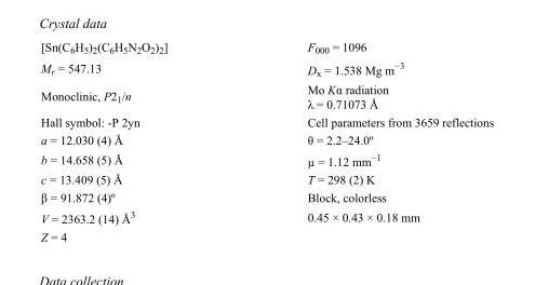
<table><tbody><tr><td>[Sn(C<sub>6</sub>H<sub>5</sub>)<sub>2</sub>(C<sub>6</sub>H<sub>5</sub>N<sub>2</sub>O<sub>2</sub>)<sub>2</sub>]</td><td>F<sub>000</sub> = 1096</td></tr><tr><td>M<sub>r</sub> = 547.13</td><td>D<sub>x</sub> = 1.538 Mg m<sup>−3</sup></td></tr><tr><td>Monoclinic, P2<sub>1</sub>/n</td><td>Mo Kα radiation λ = 0.71073 Å</td></tr><tr><td>Hall symbol: -P 2yn</td><td>Cell parameters from 3659 reflections</td></tr><tr><td>a = 12.030 (4) Å</td><td>θ = 2.2–24.0º</td></tr><tr><td>b = 14.658 (5) Å</td><td>µ = 1.12 mm<sup>−1</sup></td></tr><tr><td>c = 13.409 (5) Å</td><td>T = 298 (2) K</td></tr><tr><td>β = 91.872 (4)º</td><td>Block, colorless</td></tr><tr><td>V = 2363.2 (14) Å<sup>3</sup></td><td>0.45 × 0.43 × 0.18 mm</td></tr><tr><td>Z = 4</td><td></td></tr></tbody></table>